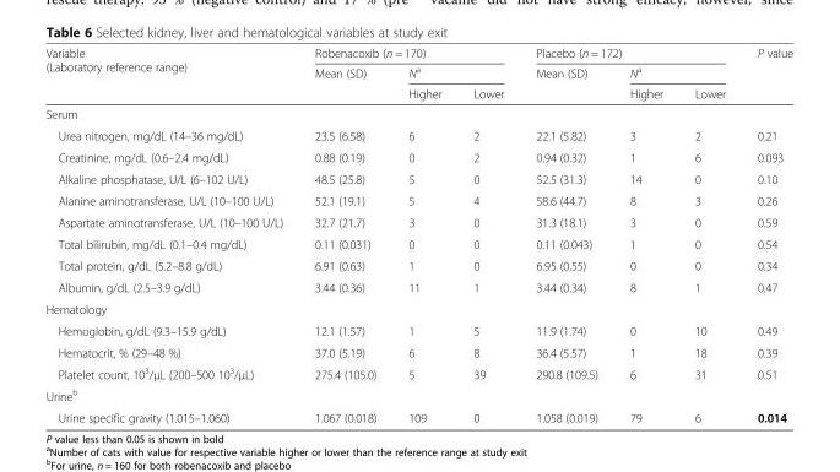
<table><thead><tr><td rowspan="3">Variable (Laboratory reference range)</td><td colspan="3">Robenacoxib (n = 170)</td><td colspan="3">Placebo (n = 172)</td><td rowspan="3">P value</td></tr><tr><td rowspan="2">Mean (SD)</td><td colspan="2">N<sup>a</sup></td><td rowspan="2">Mean (SD)</td><td colspan="2">N<sup>a</sup></td></tr><tr><td>Higher</td><td>Lower</td><td>Higher</td><td>Lower</td></tr></thead><tbody><tr><td colspan="8">Serum</td></tr><tr><td>Urea nitrogen, mg/dL (14–36 mg/dL)</td><td>23.5 (6.58)</td><td>6</td><td>2</td><td>22.1 (5.82)</td><td>3</td><td>2</td><td>0.21</td></tr><tr><td>Creatinine, mg/dL (0.6–2.4 mg/dL)</td><td>0.88 (0.19)</td><td>0</td><td>2</td><td>0.94 (0.32)</td><td>1</td><td>6</td><td>0.093</td></tr><tr><td>Alkaline phosphatase, U/L (6–102 U/L)</td><td>48.5 (25.8)</td><td>5</td><td>0</td><td>52.5 (31.3)</td><td>14</td><td>0</td><td>0.10</td></tr><tr><td>Alanine aminotransferase, U/L (10–100 U/L)</td><td>52.1 (19.1)</td><td>5</td><td>4</td><td>58.6 (44.7)</td><td>8</td><td>3</td><td>0.26</td></tr><tr><td>Aspartate aminotransferase, U/L (10–100 U/L)</td><td>32.7 (21.7)</td><td>3</td><td>0</td><td>31.3 (18.1)</td><td>3</td><td>0</td><td>0.59</td></tr><tr><td>Total bilirubin, mg/dL (0.1–0.4 mg/dL)</td><td>0.11 (0.031)</td><td>0</td><td>0</td><td>0.11 (0.043)</td><td>1</td><td>0</td><td>0.54</td></tr><tr><td>Total protein, g/dL (5.2–8.8 g/dL)</td><td>6.91 (0.63)</td><td>1</td><td>0</td><td>6.95 (0.55)</td><td>0</td><td>0</td><td>0.34</td></tr><tr><td>Albumin, g/dL (2.5–3.9 g/dL)</td><td>3.44 (0.36)</td><td>11</td><td>1</td><td>3.44 (0.34)</td><td>8</td><td>1</td><td>0.47</td></tr><tr><td colspan="8">Hematology</td></tr><tr><td>Hemoglobin, g/dL (9.3–15.9 g/dL)</td><td>12.1 (1.57)</td><td>1</td><td>5</td><td>11.9 (1.74)</td><td>0</td><td>10</td><td>0.49</td></tr><tr><td>Hematocrit, % (29–48 %)</td><td>37.0 (5.19)</td><td>6</td><td>8</td><td>36.4 (5.57)</td><td>1</td><td>18</td><td>0.39</td></tr><tr><td>Platelet count, 10<sup>3</sup>/μL (200–500 10<sup>3</sup>/μL)</td><td>275.4 (105.0)</td><td>5</td><td>39</td><td>290.8 (109.5)</td><td>6</td><td>31</td><td>0.51</td></tr><tr><td colspan="8">Urine<sup>b</sup></td></tr><tr><td>Urine specific gravity (1.015–1.060)</td><td>1.067 (0.018)</td><td>109</td><td>0</td><td>1.058 (0.019)</td><td>79</td><td>6</td><td>0.014</td></tr></tbody></table>